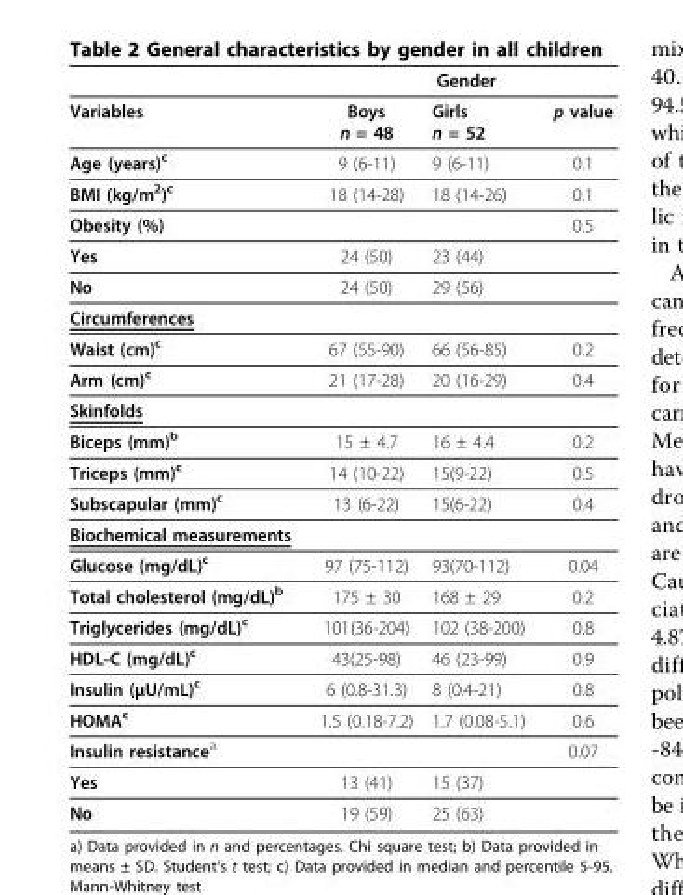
<table><thead><tr><td rowspan="2">Variables</td><td colspan="3">Gender</td></tr><tr><td>Boys n = 48</td><td>Girls n = 52</td><td>p value</td></tr></thead><tbody><tr><td>Age (years)<sup>c</sup></td><td>9 (6-11)</td><td>9 (6-11)</td><td>0.1</td></tr><tr><td>BMI (kg/m<sup>2</sup>)<sup>c</sup></td><td>18 (14-28)</td><td>18 (14-26)</td><td>0.1</td></tr><tr><td>Obesity (%)</td><td></td><td></td><td>0.5</td></tr><tr><td>Yes</td><td>24 (50)</td><td>23 (44)</td><td></td></tr><tr><td>No</td><td>24 (50)</td><td>29 (56)</td><td></td></tr><tr><td colspan="4">Circumferences</td></tr><tr><td>Waist (cm)<sup>c</sup></td><td>67 (55-90)</td><td>66 (56-85)</td><td>0.2</td></tr><tr><td>Arm (cm)<sup>c</sup></td><td>21 (17-28)</td><td>20 (16-29)</td><td>0.4</td></tr><tr><td colspan="4">Skinfolds</td></tr><tr><td>Biceps (mm)<sup>b</sup></td><td>15 ± 4.7</td><td>16 ± 4.4</td><td>0.2</td></tr><tr><td>Triceps (mm)<sup>c</sup></td><td>14 (10-22)</td><td>15(9-22)</td><td>0.5</td></tr><tr><td>Subscapular (mm)<sup>c</sup></td><td>13 (6-22)</td><td>15(6-22)</td><td>0.4</td></tr><tr><td colspan="4">Biochemical measurements</td></tr><tr><td>Glucose (mg/dL)<sup>c</sup></td><td>97 (75-112)</td><td>93(70-112)</td><td>0.04</td></tr><tr><td>Total cholesterol (mg/dL)<sup>b</sup></td><td>175 ± 30</td><td>168 ± 29</td><td>0.2</td></tr><tr><td>Triglycerides (mg/dL)<sup>c</sup></td><td>101(36-204)</td><td>102 (38-200)</td><td>0.8</td></tr><tr><td>HDL-C (mg/dL)<sup>c</sup></td><td>43(25-98)</td><td>46 (23-99)</td><td>0.9</td></tr><tr><td>Insulin (μU/mL)<sup>c</sup></td><td>6 (0.8-31.3)</td><td>8 (0.4-21)</td><td>0.8</td></tr><tr><td>HOMA<sup>c</sup></td><td>1.5 (0.18-7.2)</td><td>1.7 (0.08-5.1)</td><td>0.6</td></tr><tr><td>Insulin resistance<sup>a</sup></td><td></td><td></td><td>0.07</td></tr><tr><td>Yes</td><td>13 (41)</td><td>15 (37)</td><td></td></tr><tr><td>No</td><td>19 (59)</td><td>25 (63)</td><td></td></tr></tbody></table>